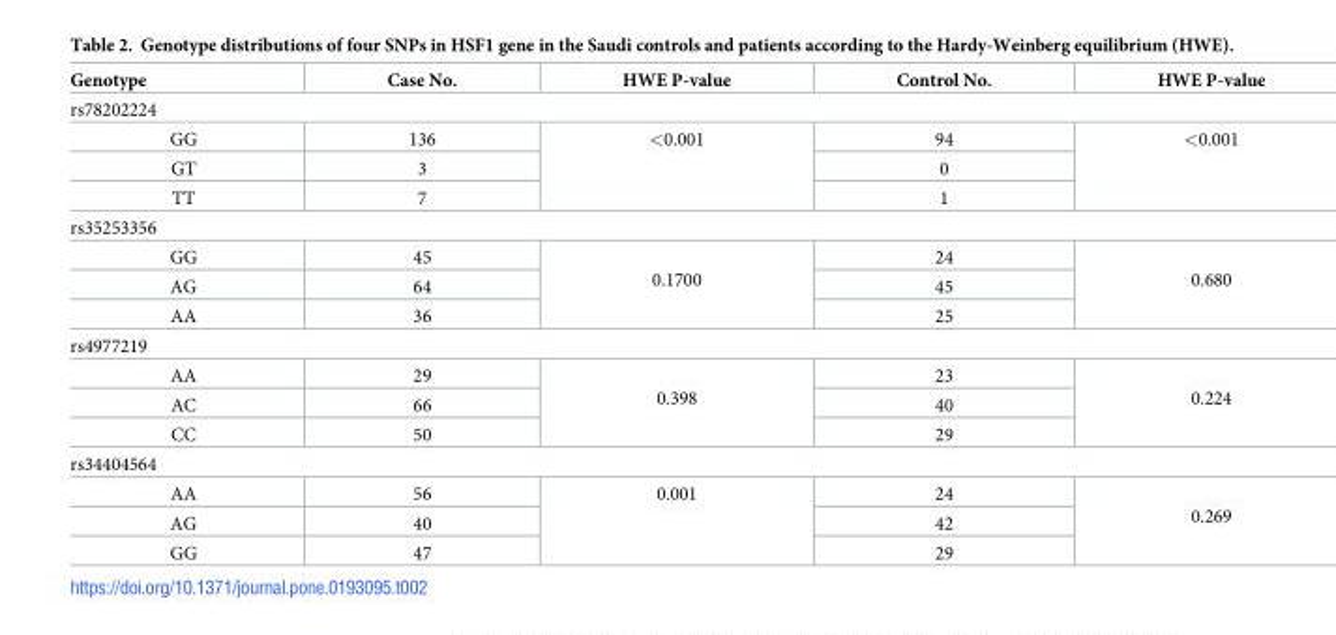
<table><thead><tr><td>Genotype</td><td>Case No.</td><td>HWE P-value</td><td>Control No.</td><td>HWE P-value</td></tr></thead><tbody><tr><td colspan="5">rs78202224</td></tr><tr><td>GG</td><td>136</td><td rowspan="3">&lt;0.001</td><td>94</td><td rowspan="3">&lt;0.001</td></tr><tr><td>GT</td><td>3</td><td>0</td></tr><tr><td>TT</td><td>7</td><td>1</td></tr><tr><td colspan="5">rs35253356</td></tr><tr><td>GG</td><td>45</td><td rowspan="3">0.1700</td><td>24</td><td rowspan="3">0.680</td></tr><tr><td>AG</td><td>64</td><td>45</td></tr><tr><td>AA</td><td>36</td><td>25</td></tr><tr><td colspan="5">rs4977219</td></tr><tr><td>AA</td><td>29</td><td rowspan="3">0.398</td><td>23</td><td rowspan="3">0.224</td></tr><tr><td>AC</td><td>66</td><td>40</td></tr><tr><td>CC</td><td>50</td><td>29</td></tr><tr><td colspan="5">rs34404564</td></tr><tr><td>AA</td><td>56</td><td rowspan="3">0.001</td><td>24</td><td rowspan="3">0.269</td></tr><tr><td>AG</td><td>40</td><td>42</td></tr><tr><td>GG</td><td>47</td><td>29</td></tr></tbody></table>